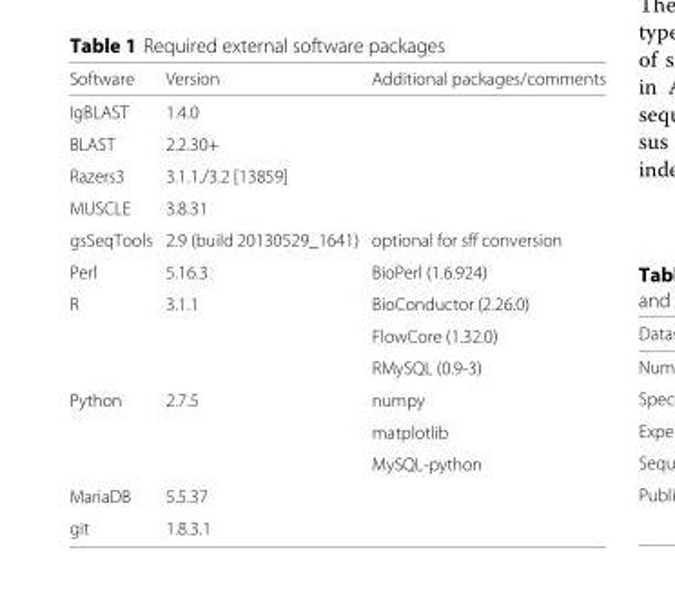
<table><thead><tr><td>Software</td><td>Version</td><td>Additional packages/comments</td></tr></thead><tbody><tr><td>IgBLAST</td><td>1.4.0</td><td></td></tr><tr><td>BLAST</td><td>2.2.30+</td><td></td></tr><tr><td>Razers3</td><td>3.1.1./3.2 [13859]</td><td></td></tr><tr><td>MUSCLE</td><td>3.8.31</td><td></td></tr><tr><td>gsSeqTools</td><td>2.9 (build 20130529_1641)</td><td>optional for sff conversion</td></tr><tr><td>Perl</td><td>5.16.3</td><td>BioPerl (1.6.924)</td></tr><tr><td rowspan="3">R</td><td>3.1.1</td><td>BioConductor (2.26.0)</td></tr><tr><td></td><td>FlowCore (1.32.0)</td></tr><tr><td></td><td>RMySQL (0.9-3)</td></tr><tr><td rowspan="3">Python</td><td>2.7.5</td><td>numpy</td></tr><tr><td></td><td>matplotlib</td></tr><tr><td></td><td>MySQL-python</td></tr><tr><td>MariaDB</td><td>5.5.37</td><td></td></tr><tr><td>git</td><td>1.8.3.1</td><td></td></tr></tbody></table>